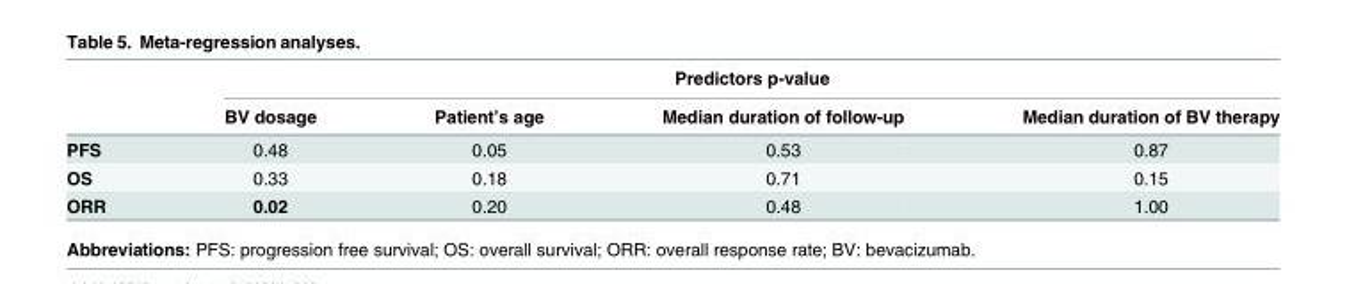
<table><thead><tr><td rowspan="2"></td><td colspan="4">Predictors p-value</td></tr><tr><td>BV dosage</td><td>Patient’s age</td><td>Median duration of follow-up</td><td>Median duration of BV therapy</td></tr></thead><tbody><tr><td>PFS</td><td>0.48</td><td>0.05</td><td>0.53</td><td>0.87</td></tr><tr><td>OS</td><td>0.33</td><td>0.18</td><td>0.71</td><td>0.15</td></tr><tr><td>ORR</td><td>0.02</td><td>0.20</td><td>0.48</td><td>1.00</td></tr></tbody></table>